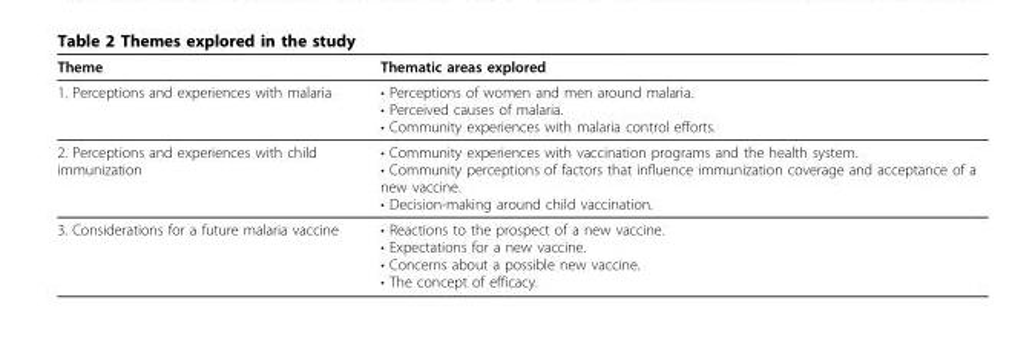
<table><thead><tr><td>Theme</td><td>Thematic areas explored</td></tr></thead><tbody><tr><td>1. Perceptions and experiences with malaria</td><td>• Perceptions of women and men around malaria. • Perceived causes of malaria. • Community experiences with malaria control efforts.</td></tr><tr><td>2. Perceptions and experiences with child immunization</td><td>• Community experiences with vaccination programs and the health system. • Community perceptions of factors that influence immunization coverage and acceptance of a new vaccine. • Decision-making around child vaccination.</td></tr><tr><td>3. Considerations for a future malaria vaccine</td><td>• Reactions to the prospect of a new vaccine. • Expectations for a new vaccine. • Concerns about a possible new vaccine. • The concept of efficacy.</td></tr></tbody></table>